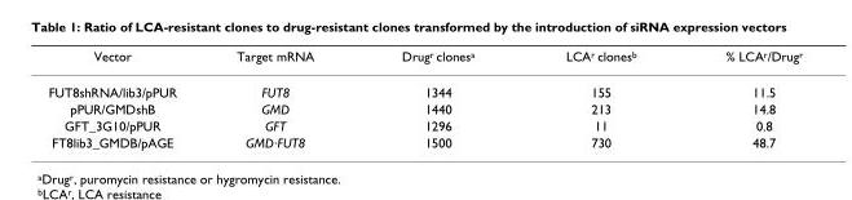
<table><thead><tr><td>Vector</td><td>Target mRNA</td><td>Drug<sup>r</sup> clones<sup>a</sup></td><td>LCA<sup>r</sup> clones<sup>b</sup></td><td>% LCA<sup>r</sup>/Drug<sup>r</sup></td></tr></thead><tbody><tr><td>FUT8shRNA/lib3/pPUR</td><td>FUT8</td><td>1344</td><td>155</td><td>11.5</td></tr><tr><td>pPUR/GMDshB</td><td>GMD</td><td>1440</td><td>213</td><td>14.8</td></tr><tr><td>GFT_3G10/pPUR</td><td>GFT</td><td>1296</td><td>11</td><td>0.8</td></tr><tr><td>FT8lib3_GMDB/pAGE</td><td>GMD·FUT8</td><td>1500</td><td>730</td><td>48.7</td></tr></tbody></table>